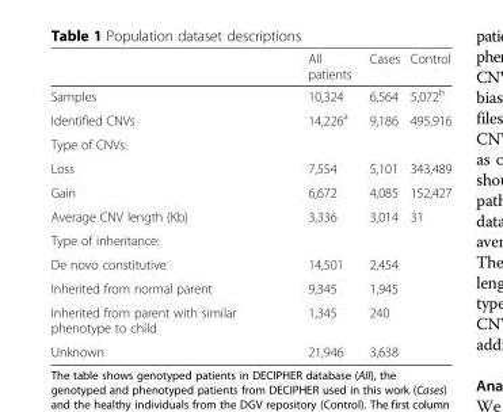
<table><thead><tr><td></td><td>All patients</td><td>Cases</td><td>Control</td></tr></thead><tbody><tr><td>Samples</td><td>10,324</td><td>6,564</td><td>5,072<sup>b</sup></td></tr><tr><td>Identified CNVs</td><td>14,226<sup>a</sup></td><td>9,186</td><td>495,916</td></tr><tr><td colspan="4">Type of CNVs:</td></tr><tr><td>Loss</td><td>7,554</td><td>5,101</td><td>343,489</td></tr><tr><td>Gain</td><td>6,672</td><td>4,085</td><td>152,427</td></tr><tr><td>Average CNV length (Kb)</td><td>3,336</td><td>3,014</td><td>31</td></tr><tr><td colspan="4">Type of inheritance:</td></tr><tr><td>De novo constitutive</td><td>14,501</td><td>2,454</td><td></td></tr><tr><td>Inherited from normal parent</td><td>9,345</td><td>1,945</td><td></td></tr><tr><td>Inherited from parent with similar phenotype to child</td><td>1,345</td><td>240</td><td></td></tr><tr><td>Unknown</td><td>21,946</td><td>3,638</td><td></td></tr></tbody></table>